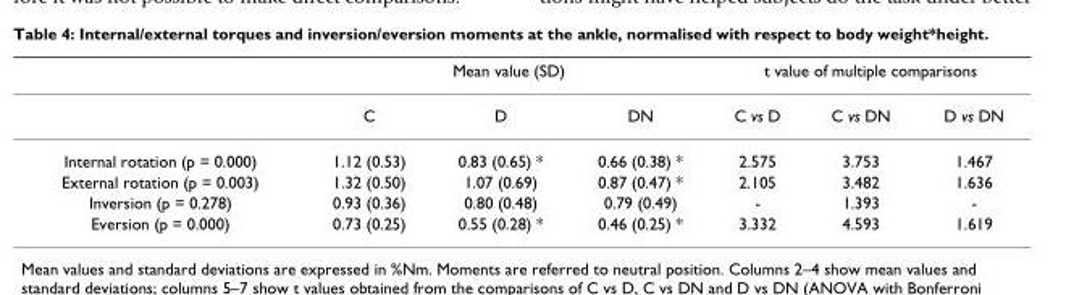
<table><thead><tr><td rowspan="2"></td><td colspan="3">Mean value (SD)</td><td colspan="3">t value of multiple comparisons</td></tr><tr><td>C</td><td>D</td><td>DN</td><td>C vs D</td><td>C vs DN</td><td>D vs DN</td></tr></thead><tbody><tr><td>Internal rotation (p = 0.000)</td><td>1.12 (0.53)</td><td>0.83 (0.65) *</td><td>0.66 (0.38) *</td><td>2.575</td><td>3.753</td><td>1.467</td></tr><tr><td>External rotation (p = 0.003)</td><td>1.32 (0.50)</td><td>1.07 (0.69)</td><td>0.87 (0.47) *</td><td>2.105</td><td>3.482</td><td>1.636</td></tr><tr><td>Inversion (p = 0.278)</td><td>0.93 (0.36)</td><td>0.80 (0.48)</td><td>0.79 (0.49)</td><td>-</td><td>1.393</td><td>-</td></tr><tr><td>Eversion (p = 0.000)</td><td>0.73 (0.25)</td><td>0.55 (0.28) *</td><td>0.46 (0.25) *</td><td>3.332</td><td>4.593</td><td>1.619</td></tr></tbody></table>